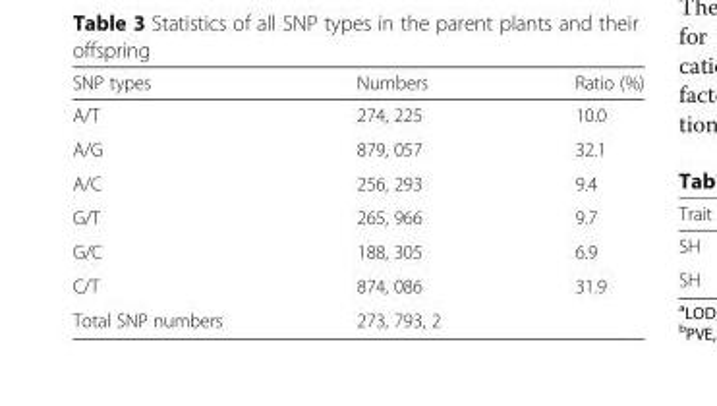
<table><thead><tr><td>SNP types</td><td>Numbers</td><td>Ratio (%)</td></tr></thead><tbody><tr><td>A/T</td><td>274, 225</td><td>10.0</td></tr><tr><td>A/G</td><td>879, 057</td><td>32.1</td></tr><tr><td>A/C</td><td>256, 293</td><td>9.4</td></tr><tr><td>G/T</td><td>265, 966</td><td>9.7</td></tr><tr><td>G/C</td><td>188, 305</td><td>6.9</td></tr><tr><td>C/T</td><td>874, 086</td><td>31.9</td></tr><tr><td>Total SNP numbers</td><td>273, 793, 2</td><td></td></tr></tbody></table>